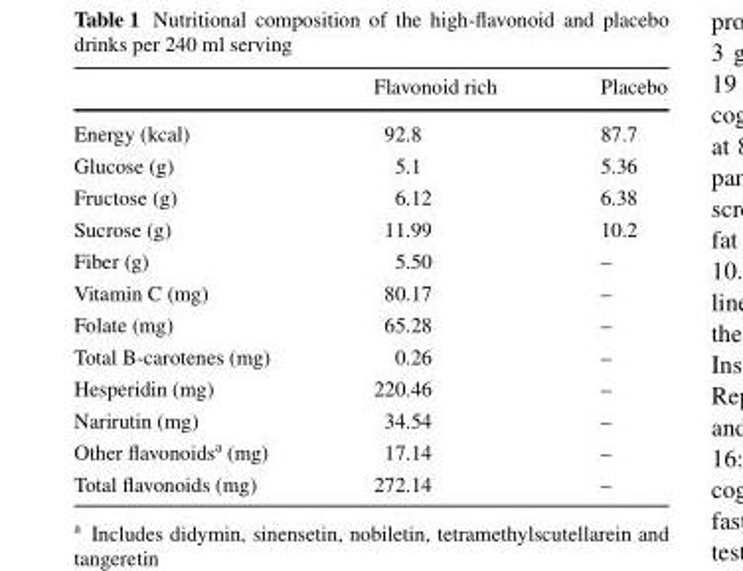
<table><thead><tr><td></td><td>Flavonoid rich</td><td>Placebo</td></tr></thead><tbody><tr><td>Energy (kcal)</td><td>92.8</td><td>87.7</td></tr><tr><td>Glucose (g)</td><td>5.1</td><td>5.36</td></tr><tr><td>Fructose (g)</td><td>6.12</td><td>6.38</td></tr><tr><td>Sucrose (g)</td><td>11.99</td><td>10.2</td></tr><tr><td>Fiber (g)</td><td>5.50</td><td>–</td></tr><tr><td>Vitamin C (mg)</td><td>80.17</td><td>–</td></tr><tr><td>Folate (mg)</td><td>65.28</td><td>–</td></tr><tr><td>Total B-carotenes (mg)</td><td>0.26</td><td>–</td></tr><tr><td>Hesperidin (mg)</td><td>220.46</td><td>–</td></tr><tr><td>Narirutin (mg)</td><td>34.54</td><td>–</td></tr><tr><td>Other flavonoids<sup>a</sup> (mg)</td><td>17.14</td><td>–</td></tr><tr><td>Total flavonoids (mg)</td><td>272.14</td><td>–</td></tr></tbody></table>